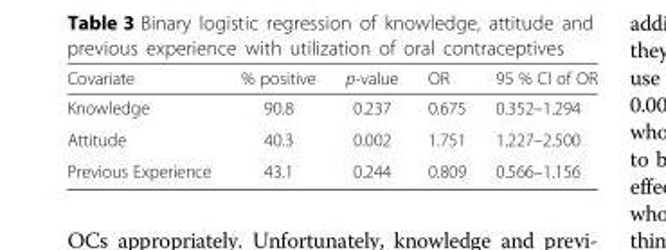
<table><thead><tr><td>Covariate</td><td>% positive</td><td>p-value</td><td>OR</td><td>95 % CI of OR</td></tr></thead><tbody><tr><td>Knowledge</td><td>90.8</td><td>0.237</td><td>0.675</td><td>0.352–1.294</td></tr><tr><td>Attitude</td><td>40.3</td><td>0.002</td><td>1.751</td><td>1.227–2.500</td></tr><tr><td>Previous Experience</td><td>43.1</td><td>0.244</td><td>0.809</td><td>0.566–1.156</td></tr></tbody></table>